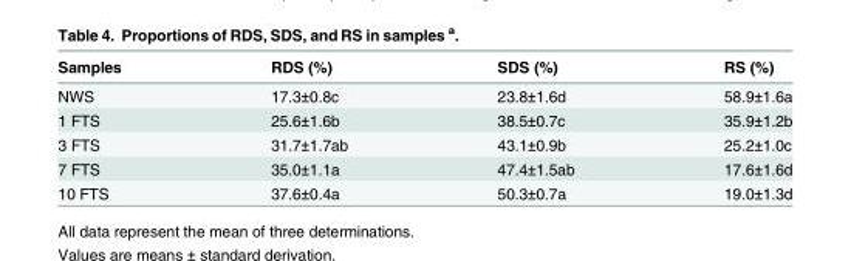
<table><thead><tr><td>Samples</td><td>RDS (%)</td><td>SDS (%)</td><td>RS (%)</td></tr></thead><tbody><tr><td>NWS</td><td>17.3±0.8c</td><td>23.8±1.6d</td><td>58.9±1.6a</td></tr><tr><td>1 FTS</td><td>25.6±1.6b</td><td>38.5±0.7c</td><td>35.9±1.2b</td></tr><tr><td>3 FTS</td><td>31.7±1.7ab</td><td>43.1±0.9b</td><td>25.2±1.0c</td></tr><tr><td>7 FTS</td><td>35.0±1.1a</td><td>47.4±1.5ab</td><td>17.6±1.6d</td></tr><tr><td>10 FTS</td><td>37.6±0.4a</td><td>50.3±0.7a</td><td>19.0±1.3d</td></tr></tbody></table>